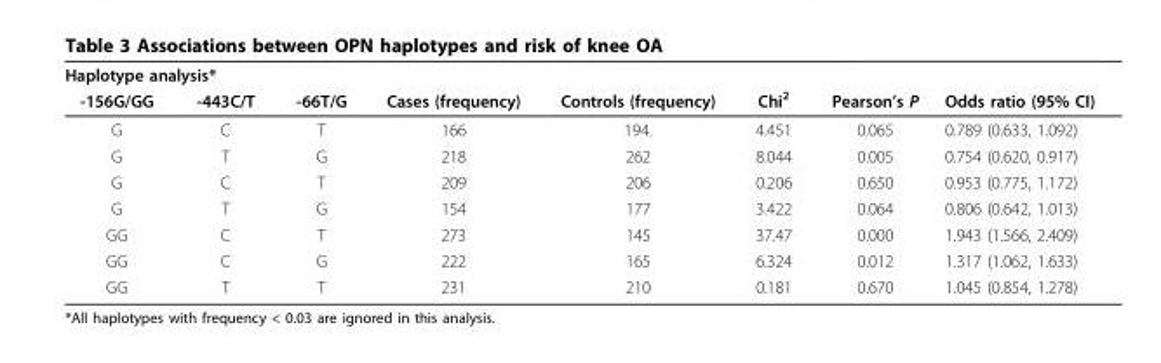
<table><thead><tr><td colspan="2">Haplotype analysis*</td><td rowspan="2">-66T/G</td><td rowspan="2">Cases (frequency)</td><td rowspan="2">Controls (frequency)</td><td rowspan="2">Chi<sup>2</sup></td><td rowspan="2">Pearson’s P</td><td rowspan="2">Odds ratio (95% CI)</td></tr><tr><td>-156G/GG</td><td>-443C/T</td></tr></thead><tbody><tr><td>G</td><td>C</td><td>T</td><td>166</td><td>194.</td><td>4.451</td><td>0.065</td><td>0.789 (0.633, 1.092)</td></tr><tr><td>G</td><td>T</td><td>G</td><td>218</td><td>262</td><td>8.044</td><td>0.005</td><td>0.754 (0.620, 0.917)</td></tr><tr><td>G</td><td>C</td><td>T</td><td>209</td><td>206</td><td>0.206</td><td>0.650</td><td>0.953 (0.775, 1.172)</td></tr><tr><td>G</td><td>T</td><td>G</td><td>154</td><td>177</td><td>3.422</td><td>0.064</td><td>0.806 (0.642, 1.013)</td></tr><tr><td>GG</td><td>C</td><td>T</td><td>273</td><td>145</td><td>37.47</td><td>0.000</td><td>1.943 (1.566, 2.409)</td></tr><tr><td>GG</td><td>C</td><td>G</td><td>222</td><td>165</td><td>6.324</td><td>0.012</td><td>1.317 (1.062, 1.633)</td></tr><tr><td>GG</td><td>T</td><td>T</td><td>231</td><td>210</td><td>0.181</td><td>0.670</td><td>1.045 (0.854, 1.278)</td></tr></tbody></table>